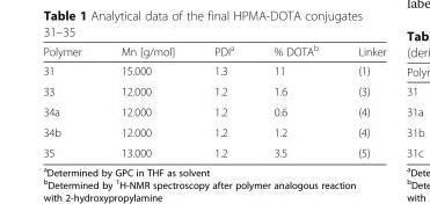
<table><thead><tr><td>Polymer</td><td>Mn [g/mol]</td><td>PDI<sup>a</sup></td><td>% DOTA<sup>b</sup></td><td>Linker</td></tr></thead><tbody><tr><td>31</td><td>15.000</td><td>1.3</td><td>11</td><td>(1)</td></tr><tr><td>33</td><td>12.000</td><td>1.2</td><td>1.6</td><td>(3)</td></tr><tr><td>34a</td><td>12.000</td><td>1.2</td><td>0.6</td><td>(4)</td></tr><tr><td>34b</td><td>12.000</td><td>1.2</td><td>1.2</td><td>(4)</td></tr><tr><td>35</td><td>13.000</td><td>1.2</td><td>3.5</td><td>(5)</td></tr></tbody></table>